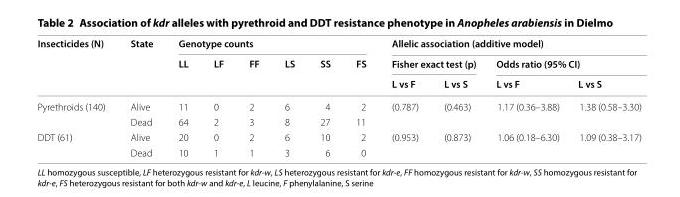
<table><thead><tr><td rowspan="3">Insecticides (N)</td><td rowspan="3">State</td><td colspan="6">Genotype counts</td><td colspan="4">Allelic association (additive model)</td></tr><tr><td rowspan="2">LL</td><td rowspan="2">LF</td><td rowspan="2">FF</td><td rowspan="2">LS</td><td rowspan="2">SS</td><td rowspan="2">FS</td><td colspan="2">Fisher exact test (p)</td><td colspan="2">Odds ratio (95% CI)</td></tr><tr><td>L vs F</td><td>L vs S</td><td>L vs F</td><td>L vs S</td></tr></thead><tbody><tr><td rowspan="2">Pyrethroids (140)</td><td>Alive</td><td>11</td><td>0</td><td>2</td><td>6</td><td>4</td><td>2</td><td rowspan="2">(0.787)</td><td rowspan="2">(0.463)</td><td rowspan="2">1.17 (0.36–3.88)</td><td rowspan="2">1.38 (0.58–3.30)</td></tr><tr><td>Dead</td><td>64</td><td>2</td><td>3</td><td>8</td><td>27</td><td>11</td></tr><tr><td rowspan="2">DDT (61)</td><td>Alive</td><td>20</td><td>0</td><td>2</td><td>6</td><td>10</td><td>2</td><td rowspan="2">(0.953)</td><td rowspan="2">(0.873)</td><td rowspan="2">1.06 (0.18–6.30)</td><td rowspan="2">1.09 (0.38–3.17)</td></tr><tr><td>Dead</td><td>10</td><td>1</td><td>1</td><td>3</td><td>6</td><td>0</td></tr></tbody></table>